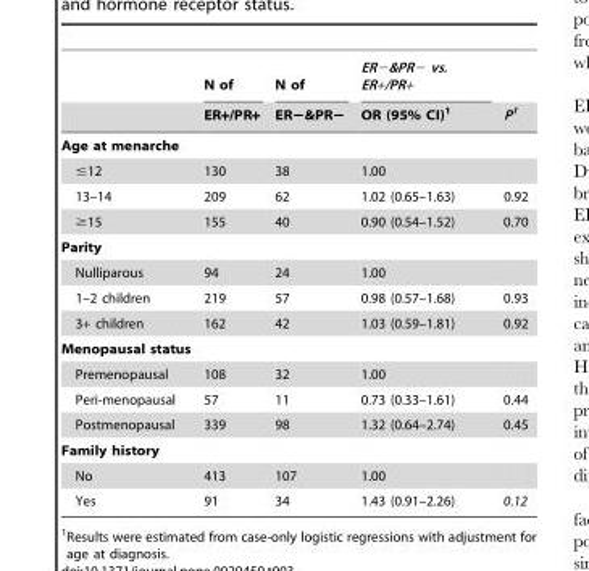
<table><thead><tr><td rowspan="2"></td><td rowspan="2">N of ER+/PR+</td><td rowspan="2">N of ER−&amp;PR−</td><td rowspan="2">ER−&amp;PR− vs. ER+/PR+ OR (95% CI)<sup>1</sup></td><td rowspan="2">P1</td></tr><tr></tr></thead><tbody><tr><td colspan="5">Age at menarche</td></tr><tr><td>≤12</td><td>130</td><td>38</td><td>1.00</td><td></td></tr><tr><td>13–14</td><td>209</td><td>62</td><td>1.02 (0.65–1.63)</td><td>0.92</td></tr><tr><td>≥15</td><td>155</td><td>40</td><td>0.90 (0.54–1.52)</td><td>0.70</td></tr><tr><td colspan="5">Parity</td></tr><tr><td>Nulliparous</td><td>94</td><td>24</td><td>1.00</td><td></td></tr><tr><td>1–2 children</td><td>219</td><td>57</td><td>0.98 (0.57–1.68)</td><td>0.93</td></tr><tr><td>3+ children</td><td>162</td><td>42</td><td>1.03 (0.59–1.81)</td><td>0.92</td></tr><tr><td colspan="5">Menopausal status</td></tr><tr><td>Premenopausal</td><td>108</td><td>32</td><td>1.00</td><td></td></tr><tr><td>Peri-menopausal</td><td>57</td><td>11</td><td>0.73 (0.33–1.61)</td><td>0.44</td></tr><tr><td>Postmenopausal</td><td>339</td><td>98</td><td>1.32 (0.64–2.74)</td><td>0.45</td></tr><tr><td colspan="5">Family history</td></tr><tr><td>No</td><td>413</td><td>107</td><td>1.00</td><td></td></tr><tr><td>Yes</td><td>91</td><td>34</td><td>1.43 (0.91–2.26)</td><td>0.12</td></tr></tbody></table>